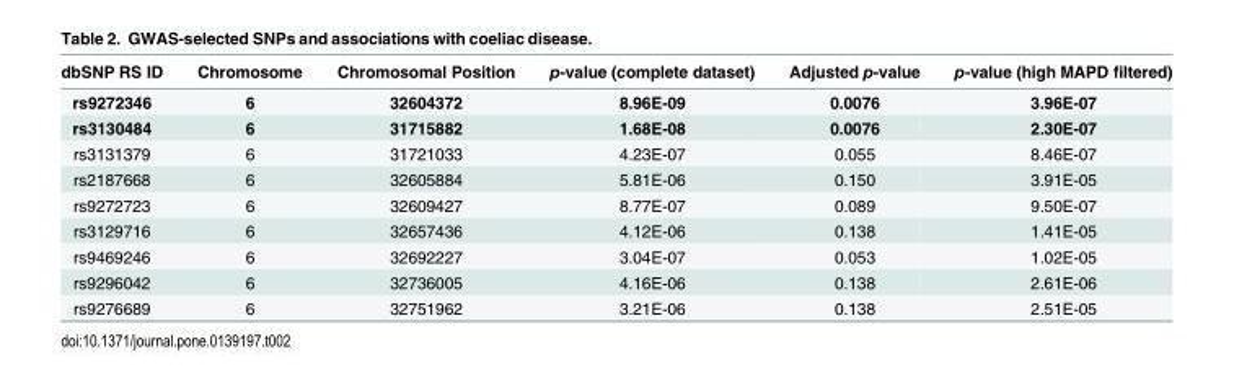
<table><thead><tr><td>dbSNP RS ID</td><td>Chromosome</td><td>Chromosomal Position</td><td>p-value (complete dataset)</td><td>Adjusted p-value</td><td>p-value (high MAPD filtered)</td></tr></thead><tbody><tr><td>rs9272346</td><td>6</td><td>32604372</td><td>8.96E-09</td><td>0.0076</td><td>3.96E-07</td></tr><tr><td>rs3130484</td><td>6</td><td>31715882</td><td>1.68E-08</td><td>0.0076</td><td>2.30E-07</td></tr><tr><td>rs3131379</td><td>6</td><td>31721033</td><td>4.23E-07</td><td>0.055</td><td>8.46E-07</td></tr><tr><td>rs2187668</td><td>6</td><td>32605884</td><td>5.81E-06</td><td>0.150</td><td>3.91E-05</td></tr><tr><td>rs9272723</td><td>6</td><td>32609427</td><td>8.77E-07</td><td>0.089</td><td>9.50E-07</td></tr><tr><td>rs3129716</td><td>6</td><td>32657436</td><td>4.12E-06</td><td>0.138</td><td>1.41E-05</td></tr><tr><td>rs9469246</td><td>6</td><td>32692227</td><td>3.04E-07</td><td>0.053</td><td>1.02E-05</td></tr><tr><td>rs9296042</td><td>6</td><td>32736005</td><td>4.16E-06</td><td>0.138</td><td>2.61E-06</td></tr><tr><td>rs9276689</td><td>6</td><td>32751962</td><td>3.21E-06</td><td>0.138</td><td>2.51E-05</td></tr></tbody></table>